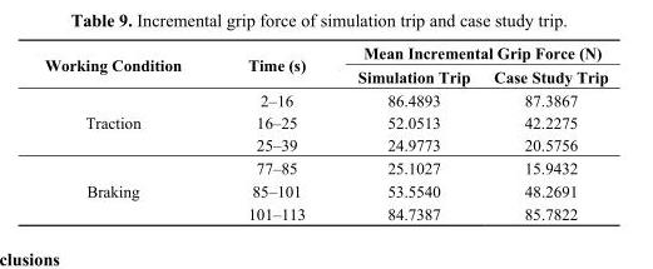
<table><thead><tr><td rowspan="2">Working Condition</td><td rowspan="2">Time (s)</td><td colspan="2">Mean Incremental Grip Force (N)</td></tr><tr><td>Simulation Trip</td><td>Case Study Trip</td></tr></thead><tbody><tr><td rowspan="3">Traction</td><td>2–16</td><td>86.4893</td><td>87.3867</td></tr><tr><td>16–25</td><td>52.0513</td><td>42.2275</td></tr><tr><td>25–39</td><td>24.9773</td><td>20.5756</td></tr><tr><td rowspan="3">Braking</td><td>77–85</td><td>25.1027</td><td>15.9432</td></tr><tr><td>85–101</td><td>53.5540</td><td>48.2691</td></tr><tr><td>101–113</td><td>84.7387</td><td>85.7822</td></tr></tbody></table>